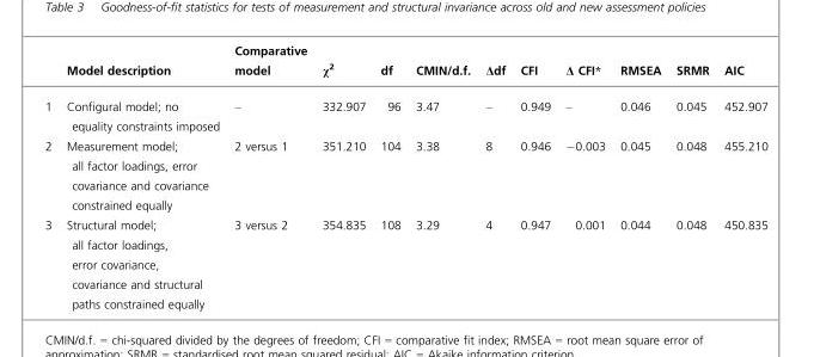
<table><thead><tr><td></td><td>Model description</td><td>Comparative model</td><td>χ<sup>2</sup></td><td>df</td><td>CMIN/d.f.</td><td>Δdf</td><td>CFI</td><td>D CFI*</td><td>RMSEA</td><td>SRMR</td><td>AIC</td></tr></thead><tbody><tr><td>1</td><td>Configural model; no equality constraints imposed</td><td>–</td><td>332.907</td><td>96</td><td>3.47</td><td>–</td><td>0.949</td><td>–</td><td>0.046</td><td>0.045</td><td>452.907</td></tr><tr><td>2</td><td>Measurement model; all factor loadings, error covariance and covariance constrained equally</td><td>2 versus 1</td><td>351.210</td><td>104</td><td>3.38</td><td>8</td><td>0.946</td><td>−0.003</td><td>0.045</td><td>0.048</td><td>455.210</td></tr><tr><td>3</td><td>Structural model; all factor loadings, error covariance, covariance and structural paths constrained equally</td><td>3 versus 2</td><td>354.835</td><td>108</td><td>3.29</td><td>4</td><td>0.947</td><td>0.001</td><td>0.044</td><td>0.048</td><td>450.835</td></tr></tbody></table>